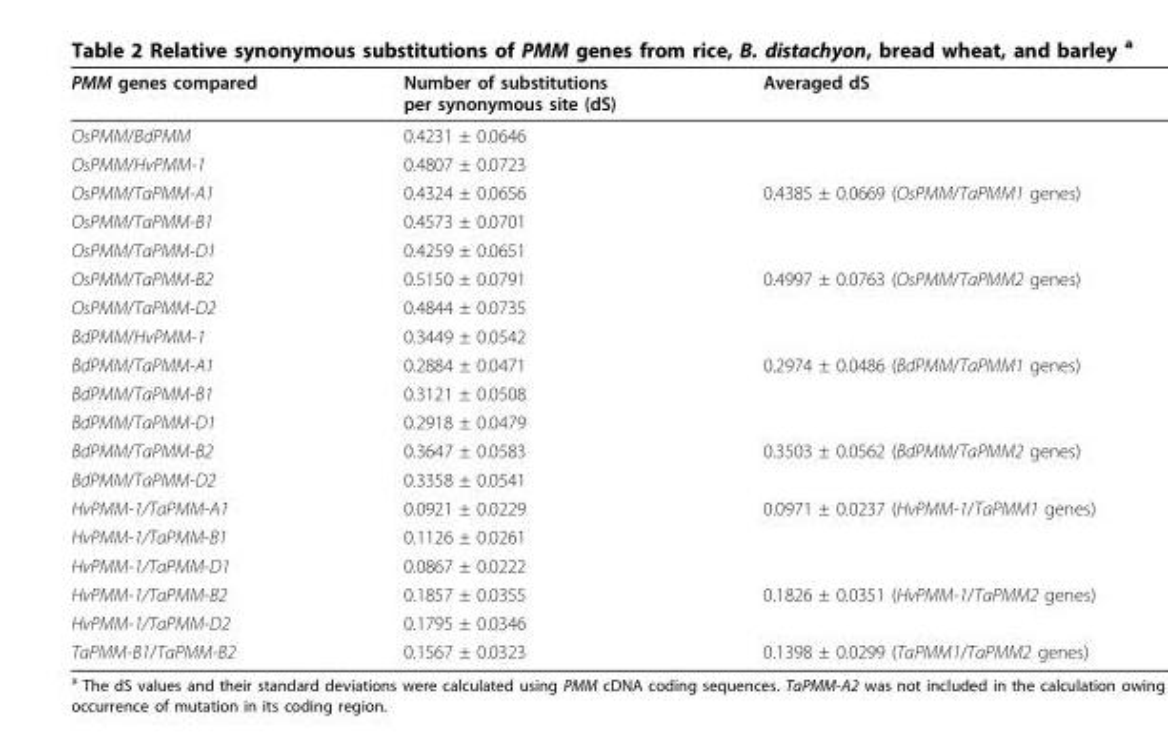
<table><thead><tr><td>PMM genes compared</td><td>Number of substitutions per synonymous site (dS)</td><td>Averaged dS</td></tr></thead><tbody><tr><td>OsPMM/BdPMM</td><td>0.4231 ± 0.0646</td><td></td></tr><tr><td>OsPMM/HvPMM-1</td><td>0.4807 ± 0.0723</td><td></td></tr><tr><td>OsPMM/TaPMM-A1</td><td>0.4324 ± 0.0656</td><td>0.4385 ± 0.0669 (OsPMM/TaPMM1 genes)</td></tr><tr><td>OsPMM/TaPMM-B1</td><td>0.4573 ± 0.0701</td><td></td></tr><tr><td>OsPMM/TaPMM-D1</td><td>0.4259 ± 0.0651</td><td></td></tr><tr><td>OsPMM/TaPMM-B2</td><td>0.5150 ± 0.0791</td><td>0.4997 ± 0.0763 (OsPMM/TaPMM2 genes)</td></tr><tr><td>OsPMM/TaPMM-D2</td><td>0.4844 ± 0.0735</td><td></td></tr><tr><td>BdPMM/HvPMM-1</td><td>0.3449 ± 0.0542</td><td></td></tr><tr><td>BdPMM/TaPMM-A1</td><td>0.2884 ± 0.0471</td><td>0.2974 ± 0.0486 (BdPMM/TaPMM1 genes)</td></tr><tr><td>BdPMM/TaPMM-B1</td><td>0.3121 ± 0.0508</td><td></td></tr><tr><td>BdPMM/TaPMM-D1</td><td>0.2918 ± 0.0479</td><td></td></tr><tr><td>BdPMM/TaPMM-B2</td><td>0.3647 ± 0.0583</td><td>0.3503 ± 0.0562 (BdPMM/TaPMM2 genes)</td></tr><tr><td>BdPMM/TaPMM-D2</td><td>0.3358 ± 0.0541</td><td></td></tr><tr><td>HvPMM-1/TaPMM-A1</td><td>0.0921 ± 0.0229</td><td>0.0971 ± 0.0237 (HvPMM-1/TaPMM1 genes)</td></tr><tr><td>HvPMM-1/TaPMM-B1</td><td>0.1126 ± 0.0261</td><td></td></tr><tr><td>HvPMM-1/TaPMM-D1</td><td>0.0867 ± 0.0222</td><td></td></tr><tr><td>HvPMM-1/TaPMM-B2</td><td>0.1857 ± 0.0355</td><td>0.1826 ± 0.0351 (HvPMM-1/TaPMM2 genes)</td></tr><tr><td>HvPMM-1/TaPMM-D2</td><td>0.1795 ± 0.0346</td><td></td></tr><tr><td>TaPMM-B1/TaPMM-B2</td><td>0.1567 ± 0.0323</td><td>0.1398 ± 0.0299 (TaPMM1/TaPMM2 genes)</td></tr></tbody></table>